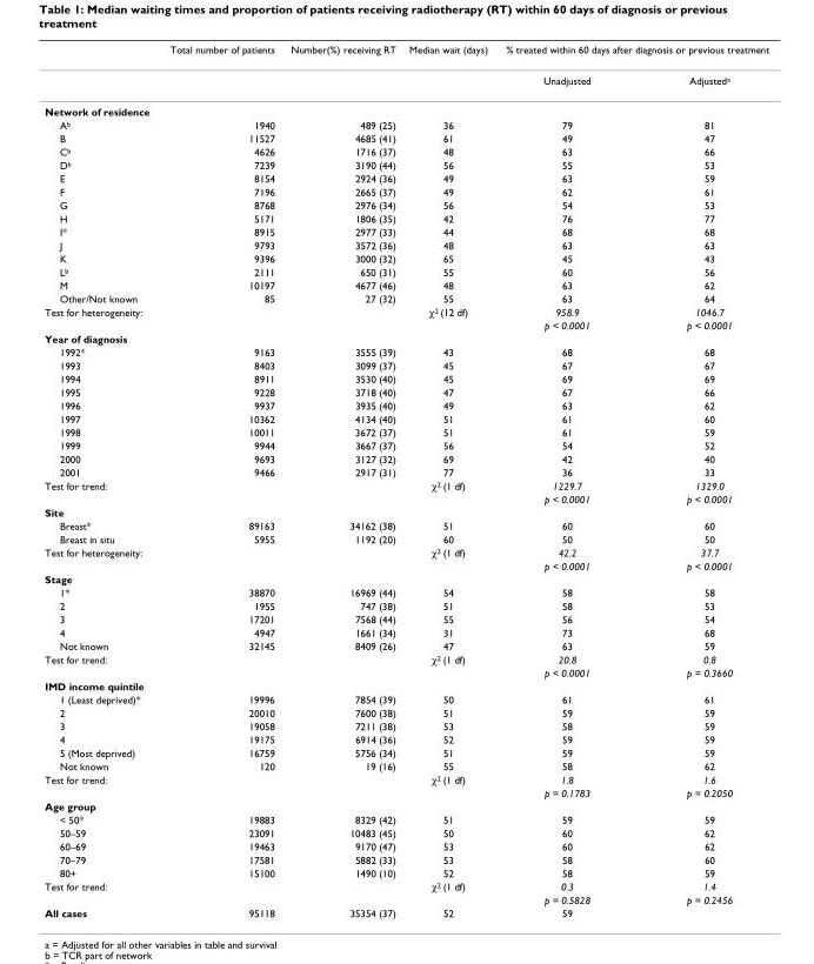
<table><thead><tr><td rowspan="2"></td><td rowspan="2">Total number of patients</td><td rowspan="2">Number(%) receiving RT</td><td rowspan="2">Median wait (days)</td><td colspan="2">% treated within 60 days after diagnosis or previous treatment</td></tr><tr><td>Unadjusted</td><td>Adjusteda</td></tr></thead><tbody><tr><td colspan="6">Network of residence</td></tr><tr><td>Ab</td><td>1940</td><td>489 (25)</td><td>36</td><td>79</td><td>81</td></tr><tr><td>B</td><td>11527</td><td>4685 (41)</td><td>61</td><td>49</td><td>47</td></tr><tr><td>Cb</td><td>4626</td><td>1716 (37)</td><td>48</td><td>63</td><td>66</td></tr><tr><td>Db</td><td>7239</td><td>3190 (44)</td><td>56</td><td>55</td><td>53</td></tr><tr><td>E</td><td>8154</td><td>2924 (36)</td><td>49</td><td>63</td><td>59</td></tr><tr><td>F</td><td>7196</td><td>2665 (37)</td><td>49</td><td>62</td><td>61</td></tr><tr><td>G</td><td>8768</td><td>2976 (34)</td><td>56</td><td>54</td><td>53</td></tr><tr><td>H</td><td>5171</td><td>1806 (35)</td><td>42</td><td>76</td><td>77</td></tr><tr><td>I*</td><td>8915</td><td>2977 (33)</td><td>44</td><td>68</td><td>68</td></tr><tr><td>J</td><td>9793</td><td>3572 (36)</td><td>48</td><td>63</td><td>63</td></tr><tr><td>K</td><td>9396</td><td>3000 (32)</td><td>65</td><td>45</td><td>43</td></tr><tr><td>Lb</td><td>2111</td><td>650 (31)</td><td>55</td><td>60</td><td>56</td></tr><tr><td>M</td><td>10197</td><td>4677 (46)</td><td>48</td><td>63</td><td>62</td></tr><tr><td>Other/Not known</td><td>85</td><td>27 (32)</td><td>55</td><td>63</td><td>64</td></tr><tr><td rowspan="2">Test for heterogeneity:</td><td></td><td></td><td>χ2 (12 df)</td><td>958.9</td><td>1046.7</td></tr><tr><td></td><td></td><td></td><td>p &lt; 0.0001</td><td>p &lt; 0.0001</td></tr><tr><td colspan="6">Year of diagnosis</td></tr><tr><td>1992*</td><td>9163</td><td>3555 (39)</td><td>43</td><td>68</td><td>68</td></tr><tr><td>1993</td><td>8403</td><td>3099 (37)</td><td>45</td><td>67</td><td>67</td></tr><tr><td>1994</td><td>8911</td><td>3530 (40)</td><td>45</td><td>69</td><td>69</td></tr><tr><td>1995</td><td>9228</td><td>3718 (40)</td><td>47</td><td>67</td><td>66</td></tr><tr><td>1996</td><td>9937</td><td>3935 (40)</td><td>49</td><td>63</td><td>62</td></tr><tr><td>1997</td><td>10362</td><td>4134 (40)</td><td>51</td><td>61</td><td>60</td></tr><tr><td>1998</td><td>10011</td><td>3672 (37)</td><td>51</td><td>61</td><td>59</td></tr><tr><td>1999</td><td>9944</td><td>3667 (37)</td><td>56</td><td>54</td><td>52</td></tr><tr><td>2000</td><td>9693</td><td>3127 (32)</td><td>69</td><td>42</td><td>40</td></tr><tr><td>2001</td><td>9466</td><td>2917 (31)</td><td>77</td><td>36</td><td>33</td></tr><tr><td rowspan="2">Test for trend:</td><td></td><td></td><td>χ2 (1 df)</td><td>1229.7</td><td>1329.0</td></tr><tr><td></td><td></td><td></td><td>p &lt; 0.0001</td><td>p &lt; 0.0001</td></tr><tr><td colspan="6">Site</td></tr><tr><td>Breast*</td><td>89163</td><td>34162 (38)</td><td>51</td><td>60</td><td>60</td></tr><tr><td>Breast in situ</td><td>5955</td><td>1192 (20)</td><td>60</td><td>50</td><td>50</td></tr><tr><td rowspan="2">Test for heterogeneity:</td><td></td><td></td><td>χ2 (1 df)</td><td>42.2</td><td>37.7</td></tr><tr><td></td><td></td><td></td><td>p &lt; 0.0001</td><td>p &lt; 0.0001</td></tr><tr><td colspan="6">Stage</td></tr><tr><td>1*</td><td>38870</td><td>16969 (44)</td><td>54</td><td>58</td><td>58</td></tr><tr><td>2</td><td>1955</td><td>747 (38)</td><td>51</td><td>58</td><td>53</td></tr><tr><td>3</td><td>17201</td><td>7568 (44)</td><td>55</td><td>56</td><td>54</td></tr><tr><td>4</td><td>4947</td><td>1661 (34)</td><td>31</td><td>73</td><td>68</td></tr><tr><td>Not known</td><td>32145</td><td>8409 (26)</td><td>47</td><td>63</td><td>59</td></tr><tr><td rowspan="2">Test for trend:</td><td></td><td></td><td>χ2 (1 df)</td><td>20.8</td><td>0.8</td></tr><tr><td></td><td></td><td></td><td>p &lt; 0.0001</td><td>p = 0.3660</td></tr><tr><td colspan="6">IMD income quintile</td></tr><tr><td>1 (Least deprived)*</td><td>19996</td><td>7854 (39)</td><td>50</td><td>61</td><td>61</td></tr><tr><td>2</td><td>20010</td><td>7600 (38)</td><td>51</td><td>59</td><td>59</td></tr><tr><td>3</td><td>19058</td><td>7211 (38)</td><td>53</td><td>58</td><td>59</td></tr><tr><td>4</td><td>19175</td><td>6914 (36)</td><td>52</td><td>59</td><td>59</td></tr><tr><td>5 (Most deprived)</td><td>16759</td><td>5756 (34)</td><td>51</td><td>59</td><td>59</td></tr><tr><td>Not known</td><td>120</td><td>19 (16)</td><td>55</td><td>58</td><td>62</td></tr><tr><td rowspan="2">Test for trend:</td><td></td><td></td><td>χ2 (1 df)</td><td>1.8</td><td>1.6</td></tr><tr><td></td><td></td><td></td><td>p = 0.1783</td><td>p = 0.2050</td></tr><tr><td colspan="6">Age group</td></tr><tr><td>&lt; 50*</td><td>19883</td><td>8329 (42)</td><td>51</td><td>59</td><td>59</td></tr><tr><td>50–59</td><td>23091</td><td>10483 (45)</td><td>50</td><td>60</td><td>62</td></tr><tr><td>60–69</td><td>19463</td><td>9170 (47)</td><td>53</td><td>60</td><td>62</td></tr><tr><td>70–79</td><td>17581</td><td>5882 (33)</td><td>53</td><td>58</td><td>60</td></tr><tr><td>80+</td><td>15100</td><td>1490 (10)</td><td>52</td><td>58</td><td>59</td></tr><tr><td rowspan="2">Test for trend:</td><td></td><td></td><td>χ2 (1 df)</td><td>0.3</td><td>1.4</td></tr><tr><td></td><td></td><td></td><td>p = 0.5828</td><td>p = 0.2456</td></tr><tr><td>All cases</td><td>95118</td><td>35354 (37)</td><td>52</td><td>59</td><td></td></tr></tbody></table>